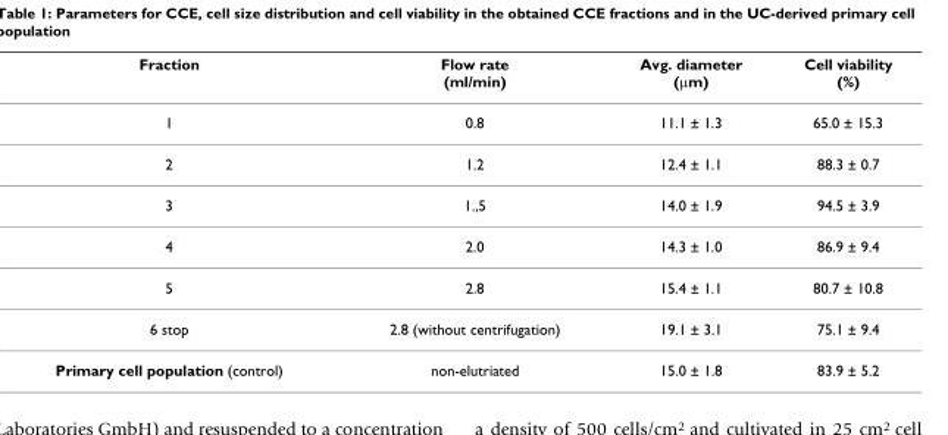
<table><thead><tr><td>Fraction</td><td>Flow rate (ml/min)</td><td>Avg. diameter (μm)</td><td>Cell viability (%)</td></tr></thead><tbody><tr><td>1</td><td>0.8</td><td>11.1 ± 1.3</td><td>65.0 ± 15.3</td></tr><tr><td>2</td><td>1.2</td><td>12.4 ± 1.1</td><td>88.3 ± 0.7</td></tr><tr><td>3</td><td>1.,5</td><td>14.0 ± 1.9</td><td>94.5 ± 3.9</td></tr><tr><td>4</td><td>2.0</td><td>14.3 ± 1.0</td><td>86.9 ± 9.4</td></tr><tr><td>5</td><td>2.8</td><td>15.4 ± 1.1</td><td>80.7 ± 10.8</td></tr><tr><td>6 stop</td><td>2.8 (without centrifugation)</td><td>19.1 ± 3.1</td><td>75.1 ± 9.4</td></tr><tr><td>Primary cell population (control)</td><td>non-elutriated</td><td>15.0 ± 1.8</td><td>83.9 ± 5.2</td></tr></tbody></table>